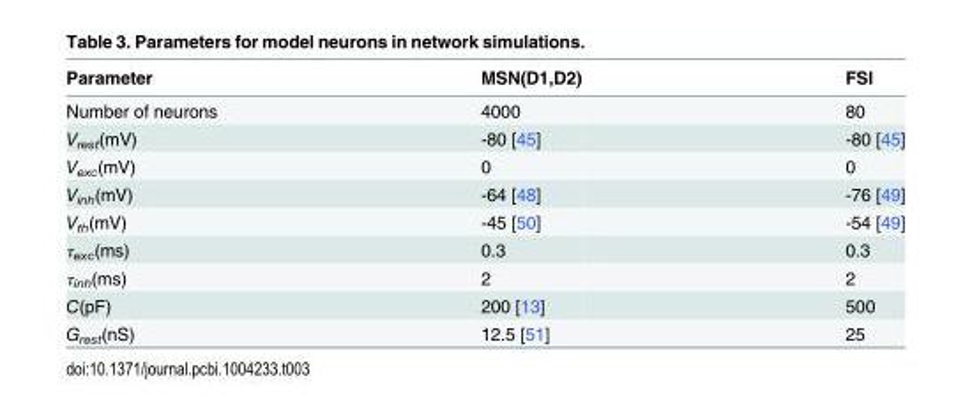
<table><thead><tr><td>Parameter</td><td>MSN(D1,D2)</td><td>FSI</td></tr></thead><tbody><tr><td>Number of neurons</td><td>4000</td><td>80</td></tr><tr><td>V<sub>rest</sub>(mV)</td><td>-80 [45]</td><td>-80 [45]</td></tr><tr><td>V<sub>exc</sub>(mV)</td><td>0</td><td>0</td></tr><tr><td>V<sub>inh</sub>(mV)</td><td>-64 [48]</td><td>-76 [49]</td></tr><tr><td>V<sub>th</sub>(mV)</td><td>-45 [50]</td><td>-54 [49]</td></tr><tr><td>τ<sub>exc</sub>(ms)</td><td>0.3</td><td>0.3</td></tr><tr><td>τ<sub>inh</sub>(ms)</td><td>2</td><td>2</td></tr><tr><td>C(pF)</td><td>200 [13]</td><td>500</td></tr><tr><td>G<sub>rest</sub>(nS)</td><td>12.5 [51]</td><td>25</td></tr></tbody></table>